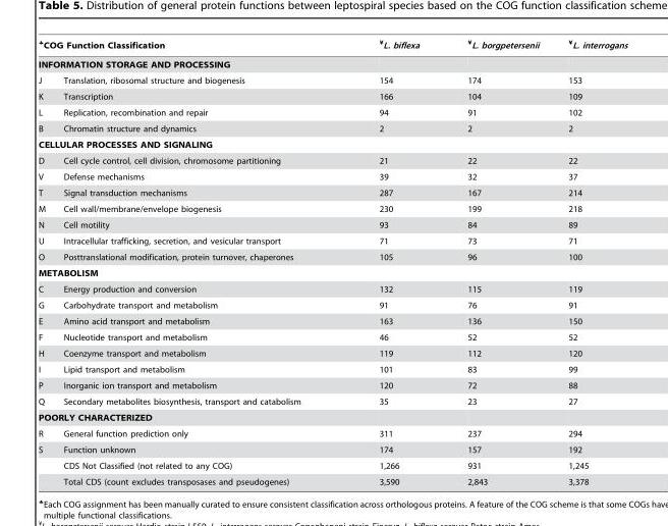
<table><thead><tr><td rowspan="2" colspan="2">§COG Function Classification INFORMATION STORAGE AND PROCESSING</td><td rowspan="3">¥L. biflexa 154</td><td rowspan="3">¥L. borgpetersenii 174</td><td rowspan="3">¥L. interrogans 153</td></tr><tr></tr><tr><td>J</td><td>Translation, ribosomal structure and biogenesis</td></tr></thead><tbody><tr><td>K</td><td>Transcription</td><td>166</td><td>104</td><td>109</td></tr><tr><td>L</td><td>Replication, recombination and repair</td><td>94</td><td>91</td><td>102</td></tr><tr><td>B</td><td>Chromatin structure and dynamics</td><td>2</td><td>2</td><td>2</td></tr><tr><td colspan="5">CELLULAR PROCESSES AND SIGNALING</td></tr><tr><td>D</td><td>Cell cycle control, cell division, chromosome partitioning</td><td>21</td><td>22</td><td>22</td></tr><tr><td>V</td><td>Defense mechanisms</td><td>39</td><td>32</td><td>37</td></tr><tr><td>T</td><td>Signal transduction mechanisms</td><td>287</td><td>167</td><td>214</td></tr><tr><td>M</td><td>Cell wall/membrane/envelope biogenesis</td><td>230</td><td>199</td><td>218</td></tr><tr><td>N</td><td>Cell motility</td><td>93</td><td>84</td><td>89</td></tr><tr><td>U</td><td>Intracellular trafficking, secretion, and vesicular transport</td><td>71</td><td>73</td><td>71</td></tr><tr><td>O</td><td>Posttranslational modification, protein turnover, chaperones</td><td>105</td><td>96</td><td>100</td></tr><tr><td colspan="5">METABOLISM</td></tr><tr><td>C</td><td>Energy production and conversion</td><td>132</td><td>115</td><td>119</td></tr><tr><td>G</td><td>Carbohydrate transport and metabolism</td><td>91</td><td>76</td><td>91</td></tr><tr><td>E</td><td>Amino acid transport and metabolism</td><td>163</td><td>136</td><td>150</td></tr><tr><td>F</td><td>Nucleotide transport and metabolism</td><td>46</td><td>52</td><td>52</td></tr><tr><td>H</td><td>Coenzyme transport and metabolism</td><td>119</td><td>112</td><td>120</td></tr><tr><td>I</td><td>Lipid transport and metabolism</td><td>101</td><td>83</td><td>99</td></tr><tr><td>P</td><td>Inorganic ion transport and metabolism</td><td>120</td><td>72</td><td>88</td></tr><tr><td>Q</td><td>Secondary metabolites biosynthesis, transport and catabolism</td><td>35</td><td>23</td><td>27</td></tr><tr><td colspan="5">POORLY CHARACTERIZED</td></tr><tr><td>R</td><td>General function prediction only</td><td>311</td><td>237</td><td>294</td></tr><tr><td rowspan="3">S</td><td>Function unknown</td><td>174</td><td>157</td><td>192</td></tr><tr><td>CDS Not Classified (not related to any COG)</td><td>1,266</td><td>931</td><td>1,245</td></tr><tr><td>Total CDS (count excludes transposases and pseudogenes)</td><td>3,590</td><td>2,843</td><td>3,378</td></tr></tbody></table>